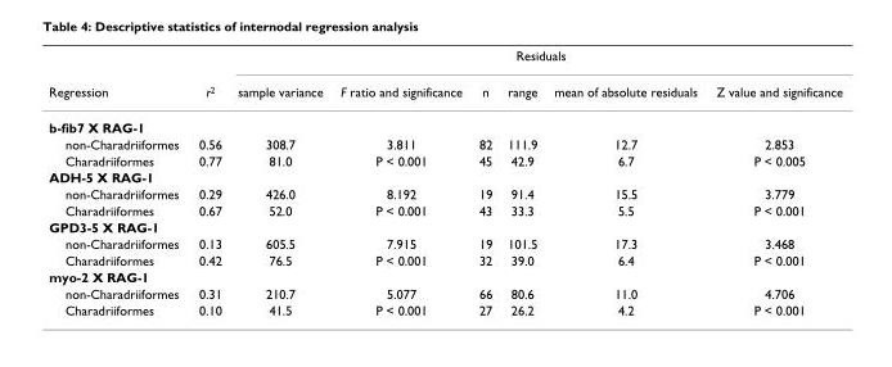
<table><thead><tr><td rowspan="2">Regression</td><td rowspan="2">r<sup>2</sup></td><td colspan="6">Residuals</td></tr><tr><td>sample variance</td><td>F ratio and significance</td><td>n</td><td>range</td><td>mean of absolute residuals</td><td>Z value and significance</td></tr></thead><tbody><tr><td colspan="8">b-fib7 X RAG-1</td></tr><tr><td>non-Charadriiformes</td><td>0.56</td><td>308.7</td><td>3.811</td><td>82</td><td>111.9</td><td>12.7</td><td>2.853</td></tr><tr><td>Charadriiformes</td><td>0.77</td><td>81.0</td><td>P &lt; 0.001</td><td>45</td><td>42.9</td><td>6.7</td><td>P &lt; 0.005</td></tr><tr><td colspan="8">ADH-5 X RAG-1</td></tr><tr><td>non-Charadriiformes</td><td>0.29</td><td>426.0</td><td>8.192</td><td>19</td><td>91.4</td><td>15.5</td><td>3.779</td></tr><tr><td>Charadriiformes</td><td>0.67</td><td>52.0</td><td>P &lt; 0.001</td><td>43</td><td>33.3</td><td>5.5</td><td>P &lt; 0.001</td></tr><tr><td colspan="8">GPD3-5 X RAG-1</td></tr><tr><td>non-Charadriiformes</td><td>0.13</td><td>605.5</td><td>7.915</td><td>19</td><td>101.5</td><td>17.3</td><td>3.468</td></tr><tr><td>Charadriiformes</td><td>0.42</td><td>76.5</td><td>P &lt; 0.001</td><td>32</td><td>39.0</td><td>6.4</td><td>P &lt; 0.001</td></tr><tr><td colspan="8">myo-2 X RAG-1</td></tr><tr><td>non-Charadriiformes</td><td>0.31</td><td>210.7</td><td>5.077</td><td>66</td><td>80.6</td><td>11.0</td><td>4.706</td></tr><tr><td>Charadriiformes</td><td>0.10</td><td>41.5</td><td>P &lt; 0.001</td><td>27</td><td>26.2</td><td>4.2</td><td>P &lt; 0.001</td></tr></tbody></table>